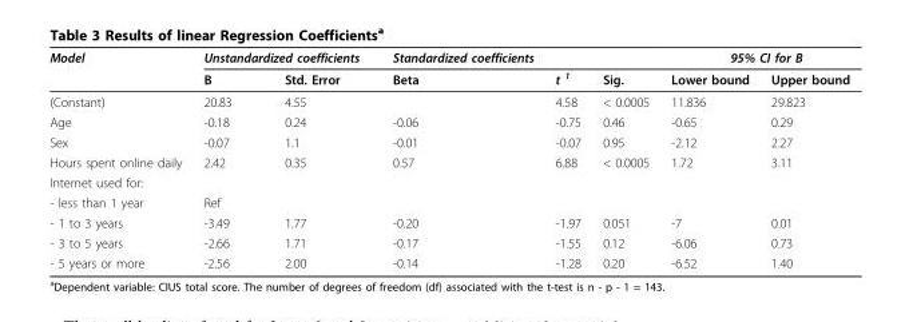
<table><thead><tr><td rowspan="2">Model</td><td colspan="2">Unstandardized coefficients</td><td rowspan="2">Standardized coefficients Beta</td><td rowspan="2">t <sup>1</sup></td><td rowspan="2">Sig.</td><td colspan="2">95% CI for B</td></tr><tr><td>B</td><td>Std. Error</td><td>Lower bound</td><td>Upper bound</td></tr></thead><tbody><tr><td>(Constant)</td><td>20.83</td><td>4.55</td><td></td><td>4.58</td><td>&lt; 0.0005</td><td>11.836</td><td>29.823</td></tr><tr><td>Age</td><td>-0.18</td><td>0.24</td><td>-0.06</td><td>-0.75</td><td>0.46</td><td>-0.65</td><td>0.29</td></tr><tr><td>Sex</td><td>-0.07</td><td>1.1</td><td>-0.01</td><td>-0.07</td><td>0.95</td><td>-2.12</td><td>2.27</td></tr><tr><td>Hours spent online daily</td><td>2.42</td><td>0.35</td><td>0.57</td><td>6.88</td><td>&lt; 0.0005</td><td>1.72</td><td>3.11</td></tr><tr><td colspan="8">Internet used for:</td></tr><tr><td>- less than 1 year</td><td>Ref</td><td></td><td></td><td></td><td></td><td></td><td></td></tr><tr><td>- 1 to 3 years</td><td>-3.49</td><td>1.77</td><td>-0.20</td><td>-1.97</td><td>0.051</td><td>-7</td><td>0.01</td></tr><tr><td>- 3 to 5 years</td><td>-2.66</td><td>1.71</td><td>-0.17</td><td>-1.55</td><td>0.12</td><td>-6.06</td><td>0.73</td></tr><tr><td>- 5 years or more</td><td>-2.56</td><td>2.00</td><td>-0.14</td><td>-1.28</td><td>0.20</td><td>-6.52</td><td>1.40</td></tr></tbody></table>